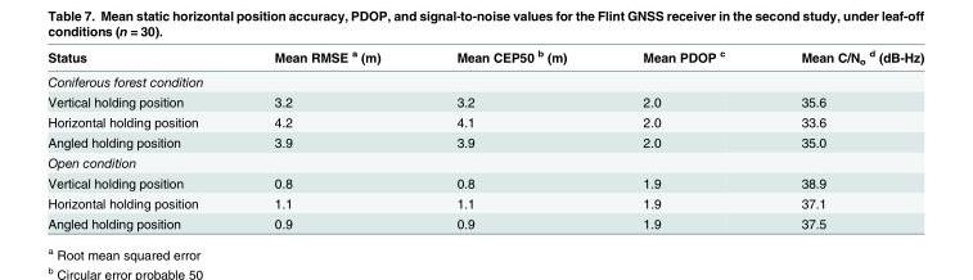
<table><thead><tr><td>Status</td><td>Mean RMSE <sup>a</sup> (m)</td><td>Mean CEP50 <sup>b</sup> (m)</td><td>Mean PDOP <sup>c</sup></td><td>Mean C/N<sub>o</sub> <sup>d</sup> (dB-Hz)</td></tr></thead><tbody><tr><td colspan="5">Coniferous forest condition</td></tr><tr><td>Vertical holding position</td><td>3.2</td><td>3.2</td><td>2.0</td><td>35.6</td></tr><tr><td>Horizontal holding position</td><td>4.2</td><td>4.1</td><td>2.0</td><td>33.6</td></tr><tr><td>Angled holding position</td><td>3.9</td><td>3.9</td><td>2.0</td><td>35.0</td></tr><tr><td colspan="5">Open condition</td></tr><tr><td>Vertical holding position</td><td>0.8</td><td>0.8</td><td>1.9</td><td>38.9</td></tr><tr><td>Horizontal holding position</td><td>1.1</td><td>1.1</td><td>1.9</td><td>37.1</td></tr><tr><td>Angled holding position</td><td>0.9</td><td>0.9</td><td>1.9</td><td>37.5</td></tr></tbody></table>